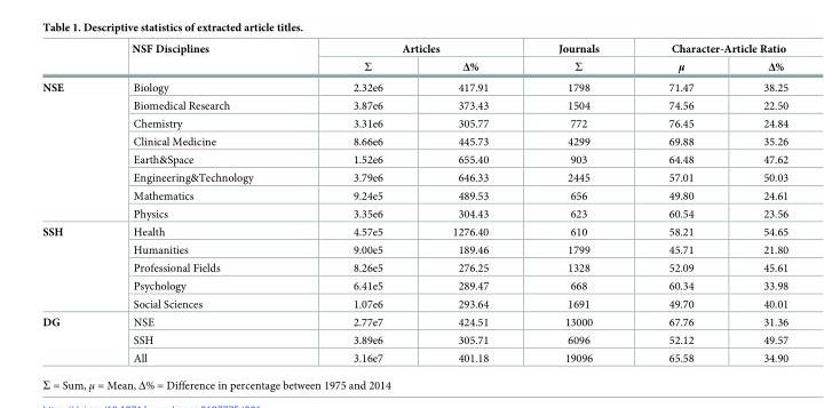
<table><thead><tr><td rowspan="2"></td><td rowspan="2">NSF Disciplines</td><td colspan="2">Articles</td><td rowspan="2">Journals Σ</td><td colspan="2">Character-Article Ratio</td></tr><tr><td>Σ</td><td>Δ%</td><td>μ</td><td>Δ%</td></tr></thead><tbody><tr><td rowspan="8">NSE</td><td>Biology</td><td>2.32e6</td><td>417.91</td><td>1798</td><td>71.47</td><td>38.25</td></tr><tr><td>Biomedical Research</td><td>3.87e6</td><td>373.43</td><td>1504</td><td>74.56</td><td>22.50</td></tr><tr><td>Chemistry</td><td>3.31e6</td><td>305.77</td><td>772</td><td>76.45</td><td>24.84</td></tr><tr><td>Clinical Medicine</td><td>8.66e6</td><td>445.73</td><td>4299</td><td>69.88</td><td>35.26</td></tr><tr><td>Earth&amp;Space</td><td>1.52e6</td><td>655.40</td><td>903</td><td>64.48</td><td>47.62</td></tr><tr><td>Engineering&amp;Technology</td><td>3.79e6</td><td>646.33</td><td>2445</td><td>57.01</td><td>50.03</td></tr><tr><td>Mathematics</td><td>9.24e5</td><td>489.53</td><td>656</td><td>49.80</td><td>24.61</td></tr><tr><td>Physics</td><td>3.35e6</td><td>304.43</td><td>623</td><td>60.54</td><td>23.56</td></tr><tr><td rowspan="5">SSH</td><td>Health</td><td>4.57e5</td><td>1276.40</td><td>610</td><td>58.21</td><td>54.65</td></tr><tr><td>Humanities</td><td>9.00e5</td><td>189.46</td><td>1799</td><td>45.71</td><td>21.80</td></tr><tr><td>Professional Fields</td><td>8.26e5</td><td>276.25</td><td>1328</td><td>52.09</td><td>45.61</td></tr><tr><td>Psychology</td><td>6.41e5</td><td>289.47</td><td>668</td><td>60.34</td><td>33.98</td></tr><tr><td>Social Sciences</td><td>1.07e6</td><td>293.64</td><td>1691</td><td>49.70</td><td>40.01</td></tr><tr><td rowspan="3">DG</td><td>NSE</td><td>2.77e7</td><td>424.51</td><td>13000</td><td>67.76</td><td>31.36</td></tr><tr><td>SSH</td><td>3.89e6</td><td>305.71</td><td>6096</td><td>52.12</td><td>49.57</td></tr><tr><td>All</td><td>3.16e7</td><td>401.18</td><td>19096</td><td>65.58</td><td>34.90</td></tr></tbody></table>